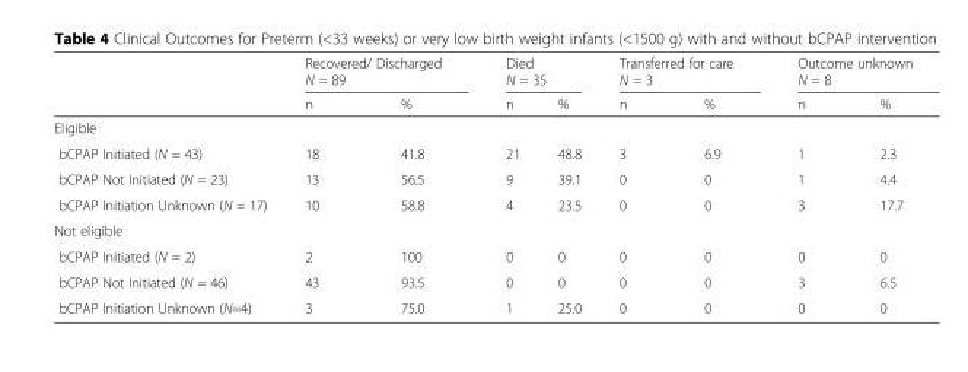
<table><thead><tr><td rowspan="3"></td><td rowspan="2" colspan="2">Recovered/ Discharged N = 89</td><td rowspan="2" colspan="2">Died N = 35</td><td rowspan="2" colspan="2">Transferred for care N = 3</td><td rowspan="2" colspan="2">Outcome unknown N = 8</td></tr><tr></tr><tr><td>n</td><td>%</td><td>n</td><td>%</td><td>n</td><td>%</td><td>n</td><td>%</td></tr></thead><tbody><tr><td colspan="9">Eligible</td></tr><tr><td>bCPAP Initiated (N = 43)</td><td>18</td><td>41.8</td><td>21</td><td>48.8</td><td>3</td><td>6.9</td><td>1</td><td>2.3</td></tr><tr><td>bCPAP Not Initiated (N = 23)</td><td>13</td><td>56.5</td><td>9</td><td>39.1</td><td>0</td><td>0</td><td>1</td><td>4.4</td></tr><tr><td>bCPAP Initiation Unknown (N = 17)</td><td>10</td><td>58.8</td><td>4</td><td>23.5</td><td>0</td><td>0</td><td>3</td><td>17.7</td></tr><tr><td colspan="9">Not eligible</td></tr><tr><td>bCPAP Initiated (N = 2)</td><td>2</td><td>100</td><td>0</td><td>0</td><td>0</td><td>0</td><td>0</td><td>0</td></tr><tr><td>bCPAP Not Initiated (N = 46)</td><td>43</td><td>93.5</td><td>0</td><td>0</td><td>0</td><td>0</td><td>3</td><td>6.5</td></tr><tr><td>bCPAP Initiation Unknown (N=4)</td><td>3</td><td>75.0</td><td>1</td><td>25.0</td><td>0</td><td>0</td><td>0</td><td>0</td></tr></tbody></table>